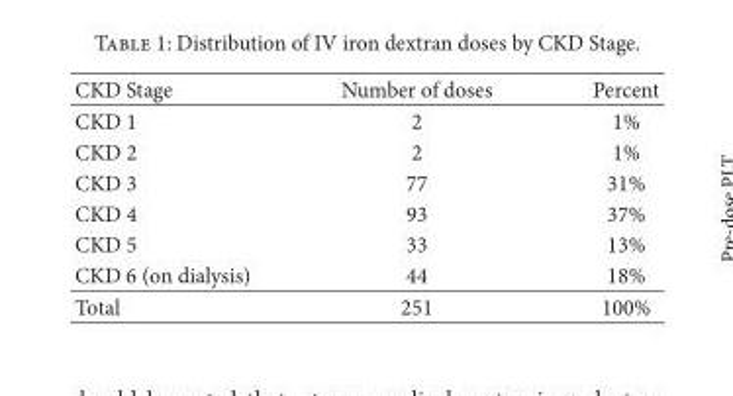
<table><thead><tr><td>CKD Stage</td><td>Number of doses</td><td>Percent</td></tr></thead><tbody><tr><td>CKD 1</td><td>2</td><td>1%</td></tr><tr><td>CKD 2</td><td>2</td><td>1%</td></tr><tr><td>CKD 3</td><td>77</td><td>31%</td></tr><tr><td>CKD 4</td><td>93</td><td>37%</td></tr><tr><td>CKD 5</td><td>33</td><td>13%</td></tr><tr><td>CKD 6 (on dialysis)</td><td>44</td><td>18%</td></tr><tr><td>Total</td><td>251</td><td>100%</td></tr></tbody></table>